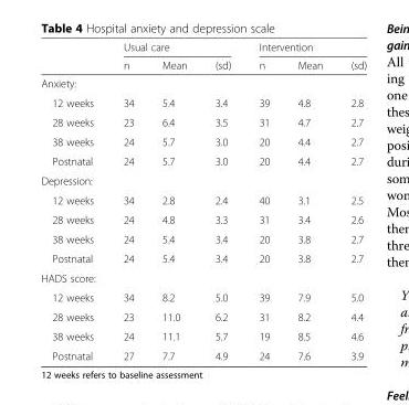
<table><thead><tr><td rowspan="2"></td><td colspan="3">Usual care</td><td colspan="3">Intervention</td></tr><tr><td>n</td><td>Mean</td><td>(sd)</td><td>n</td><td>Mean</td><td>(sd)</td></tr></thead><tbody><tr><td colspan="7">Anxiety:</td></tr><tr><td>12 weeks</td><td>34</td><td>5.4</td><td>3.4</td><td>39</td><td>4.8</td><td>2.8</td></tr><tr><td>28 weeks</td><td>23</td><td>6.4</td><td>3.5</td><td>31</td><td>4.7</td><td>2.7</td></tr><tr><td>38 weeks</td><td>24</td><td>5.7</td><td>3.0</td><td>20</td><td>4.4</td><td>2.7</td></tr><tr><td>Postnatal</td><td>24</td><td>5.7</td><td>3.0</td><td>20</td><td>4.4</td><td>2.7</td></tr><tr><td colspan="7">Depression:</td></tr><tr><td>12 weeks</td><td>34</td><td>2.8</td><td>2.4</td><td>40</td><td>3.1</td><td>2.5</td></tr><tr><td>28 weeks</td><td>24</td><td>4.8</td><td>3.3</td><td>31</td><td>3.4</td><td>2.6</td></tr><tr><td>38 weeks</td><td>24</td><td>5.4</td><td>3.4</td><td>20</td><td>3.8</td><td>2.7</td></tr><tr><td>Postnatal</td><td>24</td><td>5.4</td><td>3.4</td><td>20</td><td>3.8</td><td>2.7</td></tr><tr><td colspan="7">HADS score:</td></tr><tr><td>12 weeks</td><td>34</td><td>8.2</td><td>5.0</td><td>39</td><td>7.9</td><td>5.0</td></tr><tr><td>28 weeks</td><td>23</td><td>11.0</td><td>6.2</td><td>31</td><td>8.2</td><td>4.4</td></tr><tr><td>38 weeks</td><td>24</td><td>11.1</td><td>5.7</td><td>19</td><td>8.5</td><td>4.6</td></tr><tr><td>Postnatal</td><td>27</td><td>7.7</td><td>4.9</td><td>24</td><td>7.6</td><td>3.9</td></tr></tbody></table>